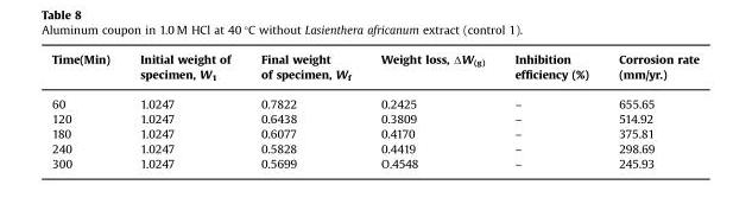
<table><thead><tr><td>Time(Min)</td><td>Initial weight of specimen, W<sub>1</sub></td><td>Final weight of specimen, W<sub>f</sub></td><td>Weight loss, ΔW(g)</td><td>Inhibition efficiency (%)</td><td>Corrosion rate (mm/yr.)</td></tr></thead><tbody><tr><td>60</td><td>1.0247</td><td>0.7822</td><td>0.2425</td><td>–</td><td>655.65</td></tr><tr><td>120</td><td>1.0247</td><td>0.6438</td><td>0.3809</td><td>–</td><td>514.92</td></tr><tr><td>180</td><td>1.0247</td><td>0.6077</td><td>0.4170</td><td>–</td><td>375.81</td></tr><tr><td>240</td><td>1.0247</td><td>0.5828</td><td>0.4419</td><td>–</td><td>298.69</td></tr><tr><td>300</td><td>1.0247</td><td>0.5699</td><td>O.4548</td><td>–</td><td>245.93</td></tr></tbody></table>